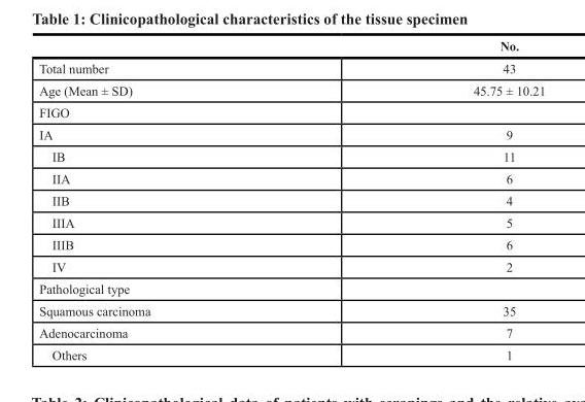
<table><thead><tr><td></td><td>No.</td></tr></thead><tbody><tr><td>Total number</td><td>43</td></tr><tr><td>Age (Mean ± SD)</td><td>45.75 ± 10.21</td></tr><tr><td colspan="2">FIGO</td></tr><tr><td>IA</td><td>9</td></tr><tr><td>IB</td><td>11</td></tr><tr><td>IIA</td><td>6</td></tr><tr><td>IIB</td><td>4</td></tr><tr><td>IIIA</td><td>5</td></tr><tr><td>IIIB</td><td>6</td></tr><tr><td>IV</td><td>2</td></tr><tr><td colspan="2">Pathological type</td></tr><tr><td>Squamous carcinoma</td><td>35</td></tr><tr><td>Adenocarcinoma</td><td>7</td></tr><tr><td>Others</td><td>1</td></tr></tbody></table>